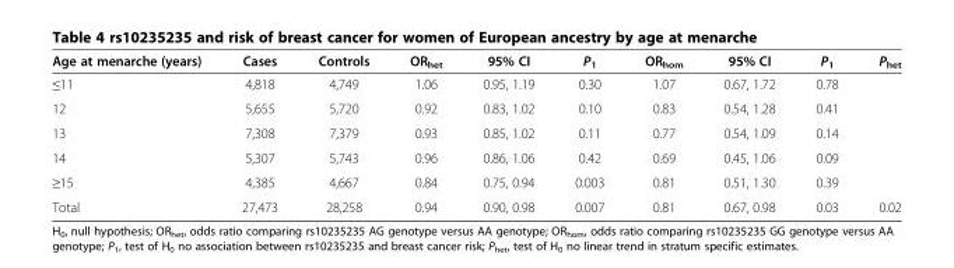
<table><thead><tr><td>Age at menarche (years)</td><td>Cases</td><td>Controls</td><td>OR<sub>het</sub></td><td>95% CI</td><td>P<sub>1</sub></td><td>OR<sub>hom</sub></td><td>95% CI</td><td>P<sub>1</sub></td><td>P<sub>het</sub></td></tr></thead><tbody><tr><td>≤11</td><td>4,818</td><td>4,749</td><td>1.06</td><td>0.95, 1.19</td><td>0.30</td><td>1.07</td><td>0.67, 1.72</td><td>0.78</td><td></td></tr><tr><td>12</td><td>5,655</td><td>5,720</td><td>0.92</td><td>0.83, 1.02</td><td>0.10</td><td>0.83</td><td>0.54, 1.28</td><td>0.41</td><td></td></tr><tr><td>13</td><td>7,308</td><td>7,379</td><td>0.93</td><td>0.85, 1.02</td><td>0.11</td><td>0.77</td><td>0.54, 1.09</td><td>0.14</td><td></td></tr><tr><td>14</td><td>5,307</td><td>5,743</td><td>0.96</td><td>0.86, 1.06</td><td>0.42</td><td>0.69</td><td>0.45, 1.06</td><td>0.09</td><td></td></tr><tr><td>≥15</td><td>4,385</td><td>4,667</td><td>0.84</td><td>0.75, 0.94</td><td>0.003</td><td>0.81</td><td>0.51, 1.30</td><td>0.39</td><td></td></tr><tr><td>Total</td><td>27,473</td><td>28,258</td><td>0.94</td><td>0.90, 0.98</td><td>0.007</td><td>0.81</td><td>0.67, 0.98</td><td>0.03</td><td>0.02</td></tr></tbody></table>